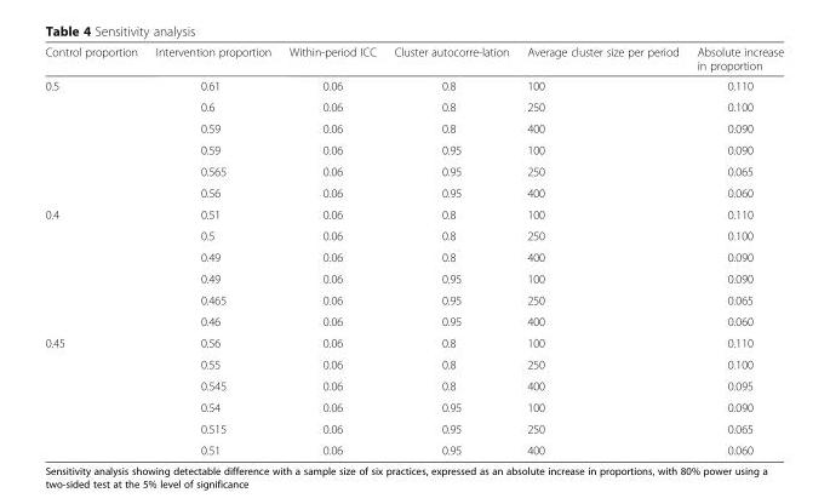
<table><thead><tr><td>Control proportion</td><td>Intervention proportion</td><td>Within-period ICC</td><td>Cluster autocorre-lation</td><td>Average cluster size per period</td><td>Absolute increase in proportion</td></tr></thead><tbody><tr><td rowspan="6">0.5</td><td>0.61</td><td>0.06</td><td>0.8</td><td>100</td><td>0.110</td></tr><tr><td>0.6</td><td>0.06</td><td>0.8</td><td>250</td><td>0.100</td></tr><tr><td>0.59</td><td>0.06</td><td>0.8</td><td>400</td><td>0.090</td></tr><tr><td>0.59</td><td>0.06</td><td>0.95</td><td>100</td><td>0.090</td></tr><tr><td>0.565</td><td>0.06</td><td>0.95</td><td>250</td><td>0.065</td></tr><tr><td>0.56</td><td>0.06</td><td>0.95</td><td>400</td><td>0.060</td></tr><tr><td rowspan="6">0.4</td><td>0.51</td><td>0.06</td><td>0.8</td><td>100</td><td>0.110</td></tr><tr><td>0.5</td><td>0.06</td><td>0.8</td><td>250</td><td>0.100</td></tr><tr><td>0.49</td><td>0.06</td><td>0.8</td><td>400</td><td>0.090</td></tr><tr><td>0.49</td><td>0.06</td><td>0.95</td><td>100</td><td>0.090</td></tr><tr><td>0.465</td><td>0.06</td><td>0.95</td><td>250</td><td>0.065</td></tr><tr><td>0.46</td><td>0.06</td><td>0.95</td><td>400</td><td>0.060</td></tr><tr><td rowspan="6">0.45</td><td>0.56</td><td>0.06</td><td>0.8</td><td>100</td><td>0.110</td></tr><tr><td>0.55</td><td>0.06</td><td>0.8</td><td>250</td><td>0.100</td></tr><tr><td>0.545</td><td>0.06</td><td>0.8</td><td>400</td><td>0.095</td></tr><tr><td>0.54</td><td>0.06</td><td>0.95</td><td>100</td><td>0.090</td></tr><tr><td>0.515</td><td>0.06</td><td>0.95</td><td>250</td><td>0.065</td></tr><tr><td>0.51</td><td>0.06</td><td>0.95</td><td>400</td><td>0.060</td></tr></tbody></table>